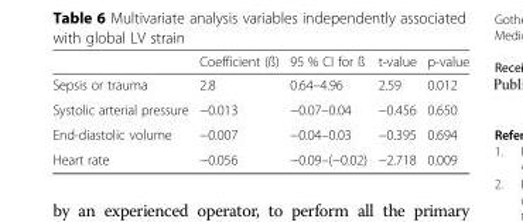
<table><thead><tr><td></td><td>Coefficient (ß)</td><td>95 % CI for ß</td><td>t-value</td><td>p-value</td></tr></thead><tbody><tr><td>Sepsis or trauma</td><td>2.8</td><td>0.64–4.96</td><td>2.59</td><td>0.012</td></tr><tr><td>Systolic arterial pressure</td><td>−0.013</td><td>−0.07–0.04</td><td>−0.456</td><td>0.650</td></tr><tr><td>End-diastolic volume</td><td>−0.007</td><td>−0.04–0.03</td><td>−0.395</td><td>0.694</td></tr><tr><td>Heart rate</td><td>−0.056</td><td>−0.09–(−0.02)</td><td>−2.718</td><td>0.009</td></tr></tbody></table>